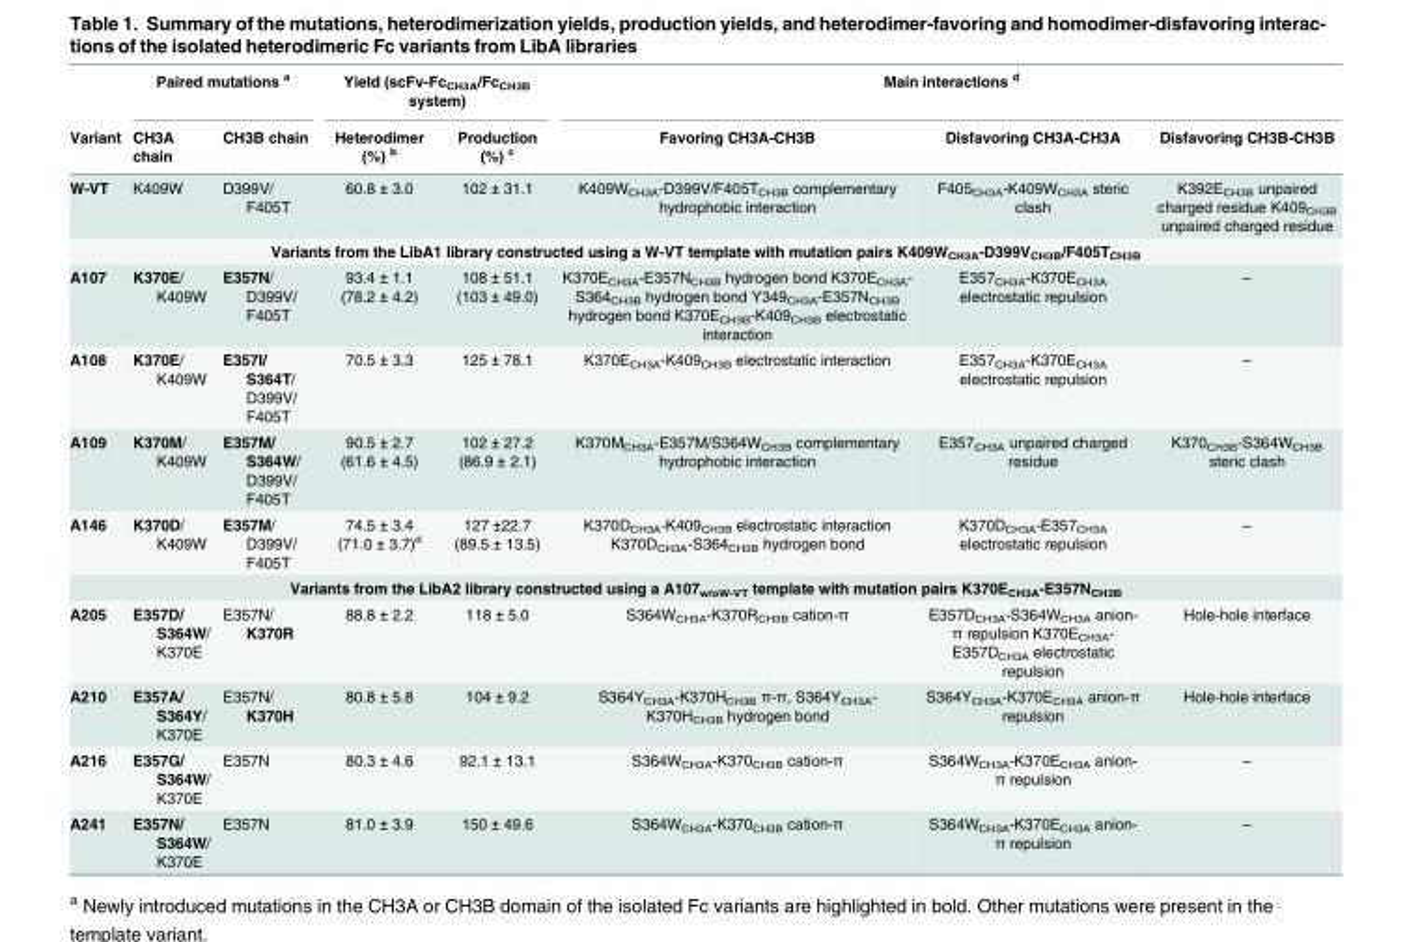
<table><thead><tr><td rowspan="2">Variant</td><td colspan="2">Paired mutations <sup>a</sup></td><td colspan="2">Yield (scFv-Fc<sub>CH3A</sub>/Fc<sub>CH3B</sub> system)</td><td colspan="3">Main interactions <sup>d</sup></td></tr><tr><td>CH3A chain</td><td>CH3B chain</td><td>Heterodimer (%) <sup>b</sup></td><td>Production (%) <sup>c</sup></td><td>Favoring CH3A-CH3B</td><td>Disfavoring CH3A-CH3A</td><td>Disfavoring CH3B-CH3B</td></tr></thead><tbody><tr><td>W-VT</td><td>K409W</td><td>D399V/ F405T</td><td>60.8 ± 3.0</td><td>102 ± 31.1</td><td>K409W<sub>CH3A</sub>-D399V/F405T<sub>CH3B</sub> complementary hydrophobic interaction</td><td>F405<sub>CH3A</sub>-K409W<sub>CH3A</sub> steric clash</td><td>K392E<sub>CH3B</sub> unpaired charged residue K409<sub>CH3B</sub> unpaired charged residue</td></tr><tr><td colspan="8">Variants from the LibA1 library constructed using a W-VT template with mutation pairs K409W<sub>CH3A</sub>-D399V<sub>CH3B</sub>/F405T<sub>CH3B</sub></td></tr><tr><td>A107</td><td>K370E/ K409W</td><td>E357N/ D399V/ F405T</td><td>93.4 ± 1.1 (78.2 ± 4.2)</td><td>108 ± 51.1 (103 ± 49.0)</td><td>K370E<sub>CH3A</sub>-E357N<sub>CH3B</sub> hydrogen bond K370E<sub>CH3A</sub>- S364<sub>CH3B</sub> hydrogen bond Y349<sub>CH3A</sub>-E357N<sub>CH3B</sub> hydrogen bond K370E<sub>CH3B</sub>-K409<sub>CH3B</sub> electrostatic interaction</td><td>E357<sub>CH3A</sub>-K370E<sub>CH3A</sub> electrostatic repulsion</td><td>–</td></tr><tr><td>A108</td><td>K370E/ K409W</td><td>E357I/ S364T/ D399V/ F405T</td><td>70.5 ± 3.3</td><td>125 ± 78.1</td><td>K370E<sub>CH3A</sub>-K409<sub>CH3B</sub> electrostatic interaction</td><td>E357<sub>CH3A</sub>-K370E<sub>CH3A</sub> electrostatic repulsion</td><td>–</td></tr><tr><td>A109</td><td>K370M/ K409W</td><td>E357M/ S364W/ D399V/ F405T</td><td>90.5 ± 2.7 (61.6 ± 4.5)</td><td>102 ± 27.2 (86.9 ± 2.1)</td><td>K370M<sub>CH3A</sub>-E357M/S364W<sub>CH3B</sub> complementary hydrophobic interaction</td><td>E357<sub>CH3A</sub> unpaired charged residue</td><td>K370<sub>CH3B</sub>-S364W<sub>CH3B</sub> steric clash</td></tr><tr><td>A146</td><td>K370D/ K409W</td><td>E357M/ D399V/ F405T</td><td>74.5 ± 3.4 (71.0 ± 3.7)<sup>d</sup></td><td>127 ±22.7 (89.5 ± 13.5)</td><td>K370D<sub>CH3A</sub>-K409<sub>CH3B</sub> electrostatic interaction K370D<sub>CH3A</sub>-S364<sub>CH3B</sub> hydrogen bond</td><td>K370D<sub>CH3A</sub>-E357<sub>CH3A</sub> electrostatic repulsion</td><td>–</td></tr><tr><td colspan="8">Variants from the LibA2 library constructed using a A107<sub>w/oW-VT</sub> template with mutation pairs K370E<sub>CH3A</sub>-E357N<sub>CH3B</sub></td></tr><tr><td>A205</td><td>E357D/ S364W/ K370E</td><td>E357N/ K370R</td><td>88.8 ± 2.2</td><td>118 ± 5.0</td><td>S364W<sub>CH3A</sub>-K370R<sub>CH3B</sub> cation-π</td><td>E357D<sub>CH3A</sub>-S364W<sub>CH3A</sub> anion- π repulsion K370E<sub>CH3A</sub>- E357D<sub>CH3A</sub> electrostatic repulsion</td><td>Hole-hole interface</td></tr><tr><td>A210</td><td>E357A/ S364Y/ K370E</td><td>E357N/ K370H</td><td>80.8 ± 5.8</td><td>104 ± 9.2</td><td>S364Y<sub>CH3A</sub>-K370H<sub>CH3B</sub> π-π, S364Y<sub>CH3A</sub>- K370H<sub>CH3B</sub> hydrogen bond</td><td>S364Y<sub>CH3A</sub>-K370E<sub>CH3A</sub> anion-π repulsion</td><td>Hole-hole interface</td></tr><tr><td>A216</td><td>E357G/ S364W/ K370E</td><td>E357N</td><td>80.3 ± 4.6</td><td>92.1 ± 13.1</td><td>S364W<sub>CH3A</sub>-K370<sub>CH3B</sub> cation-π</td><td>S364W<sub>CH3A</sub>-K370E<sub>CH3A</sub> anion- π repulsion</td><td>–</td></tr><tr><td>A241</td><td>E357N/ S364W/ K370E</td><td>E357N</td><td>81.0 ± 3.9</td><td>150 ± 49.6</td><td>S364W<sub>CH3A</sub>-K370<sub>CH3B</sub> cation-π</td><td>S364W<sub>CH3A</sub>-K370E<sub>CH3A</sub> anion- π repulsion</td><td>–</td></tr></tbody></table>